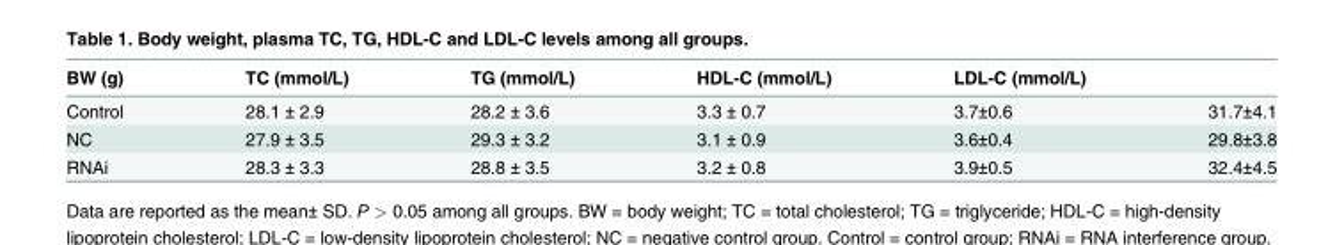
<table><thead><tr><td>BW (g)</td><td>TC (mmol/L)</td><td>TG (mmol/L)</td><td>HDL-C (mmol/L)</td><td>LDL-C (mmol/L)</td><td></td></tr></thead><tbody><tr><td>Control</td><td>28.1 ± 2.9</td><td>28.2 ± 3.6</td><td>3.3 ± 0.7</td><td>3.7±0.6</td><td>31.7±4.1</td></tr><tr><td>NC</td><td>27.9 ± 3.5</td><td>29.3 ± 3.2</td><td>3.1 ± 0.9</td><td>3.6±0.4</td><td>29.8±3.8</td></tr><tr><td>RNAi</td><td>28.3 ± 3.3</td><td>28.8 ± 3.5</td><td>3.2 ± 0.8</td><td>3.9±0.5</td><td>32.4±4.5</td></tr></tbody></table>